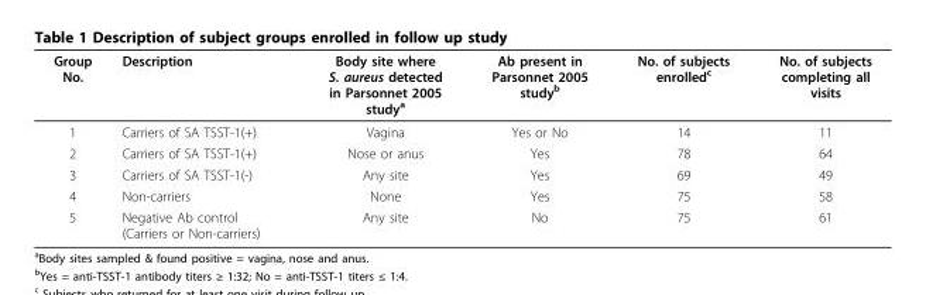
<table><thead><tr><td>Group No.</td><td>Description</td><td>Body site where S. aureus detected in Parsonnet 2005 study<sup>a</sup></td><td>Ab present in Parsonnet 2005 study<sup>b</sup></td><td>No. of subjects enrolled<sup>c</sup></td><td>No. of subjects completing all visits</td></tr></thead><tbody><tr><td>1</td><td>Carriers of SA TSST-1(+)</td><td>Vagina</td><td>Yes or No</td><td>14</td><td>11</td></tr><tr><td>2</td><td>Carriers of SA TSST-1(+)</td><td>Nose or anus</td><td>Yes</td><td>78</td><td>64</td></tr><tr><td>3</td><td>Carriers of SA TSST-1(-)</td><td>Any site</td><td>Yes</td><td>69</td><td>49</td></tr><tr><td>4</td><td>Non-carriers</td><td>None</td><td>Yes</td><td>75</td><td>58</td></tr><tr><td>5</td><td>Negative Ab control (Carriers or Non-carriers)</td><td>Any site</td><td>No</td><td>75</td><td>61</td></tr></tbody></table>